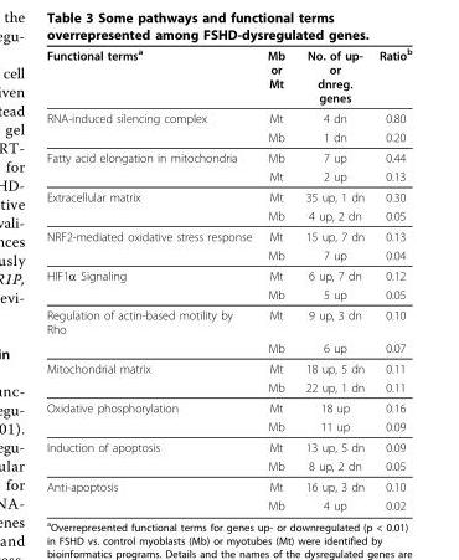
<table><thead><tr><td>Functional terms<sup>a</sup></td><td>Mb or Mt</td><td>No. of up- or dnreg. genes</td><td>Ratio<sup>b</sup></td></tr></thead><tbody><tr><td rowspan="2">RNA-induced silencing complex</td><td>Mt</td><td>4 dn</td><td>0.80</td></tr><tr><td>Mb</td><td>1 dn</td><td>0.20</td></tr><tr><td rowspan="2">Fatty acid elongation in mitochondria</td><td>Mb</td><td>7 up</td><td>0.44</td></tr><tr><td>Mt</td><td>2 up</td><td>0.13</td></tr><tr><td rowspan="2">Extracellular matrix</td><td>Mt</td><td>35 up, 1 dn</td><td>0.30</td></tr><tr><td>Mb</td><td>4 up, 2 dn</td><td>0.05</td></tr><tr><td rowspan="2">NRF2-mediated oxidative stress response</td><td>Mt</td><td>15 up, 7 dn</td><td>0.13</td></tr><tr><td>Mb</td><td>7 up</td><td>0.04</td></tr><tr><td rowspan="2">HIF1α Signaling</td><td>Mt</td><td>6 up, 7 dn</td><td>0.12</td></tr><tr><td>Mb</td><td>5 up</td><td>0.05</td></tr><tr><td rowspan="2">Regulation of actin-based motility by Rho</td><td>Mt</td><td>9 up, 3 dn</td><td>0.10</td></tr><tr><td>Mb</td><td>6 up</td><td>0.07</td></tr><tr><td rowspan="2">Mitochondrial matrix</td><td>Mt</td><td>18 up, 5 dn</td><td>0.11</td></tr><tr><td>Mb</td><td>22 up, 1 dn</td><td>0.11</td></tr><tr><td rowspan="2">Oxidative phosphorylation</td><td>Mt</td><td>18 up</td><td>0.16</td></tr><tr><td>Mb</td><td>11 up</td><td>0.09</td></tr><tr><td rowspan="2">Induction of apoptosis</td><td>Mt</td><td>13 up, 5 dn</td><td>0.09</td></tr><tr><td>Mb</td><td>8 up, 2 dn</td><td>0.05</td></tr><tr><td rowspan="2">Anti-apoptosis</td><td>Mt</td><td>16 up, 3 dn</td><td>0.10</td></tr><tr><td>Mb</td><td>4 up</td><td>0.02</td></tr></tbody></table>